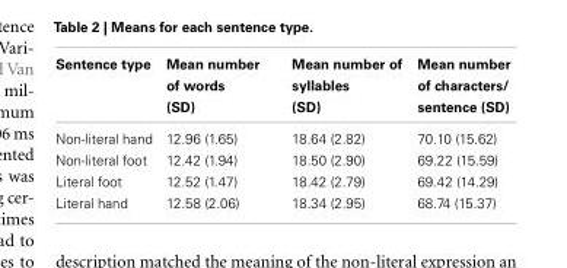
<table><thead><tr><td>Sentence type</td><td>Mean number of words (SD)</td><td>Mean number of syllables (SD)</td><td>Mean number of characters/ sentence (SD)</td></tr></thead><tbody><tr><td>Non-literal hand</td><td>12.96 (1.65)</td><td>18.64 (2.82)</td><td>70.10 (15.62)</td></tr><tr><td>Non-literal foot</td><td>12.42 (1.94)</td><td>18.50 (2.90)</td><td>69.22 (15.59)</td></tr><tr><td>Literal foot</td><td>12.52 (1.47)</td><td>18.42 (2.79)</td><td>69.42 (14.29)</td></tr><tr><td>Literal hand</td><td>12.58 (2.06)</td><td>18.34 (2.95)</td><td>68.74 (15.37)</td></tr></tbody></table>